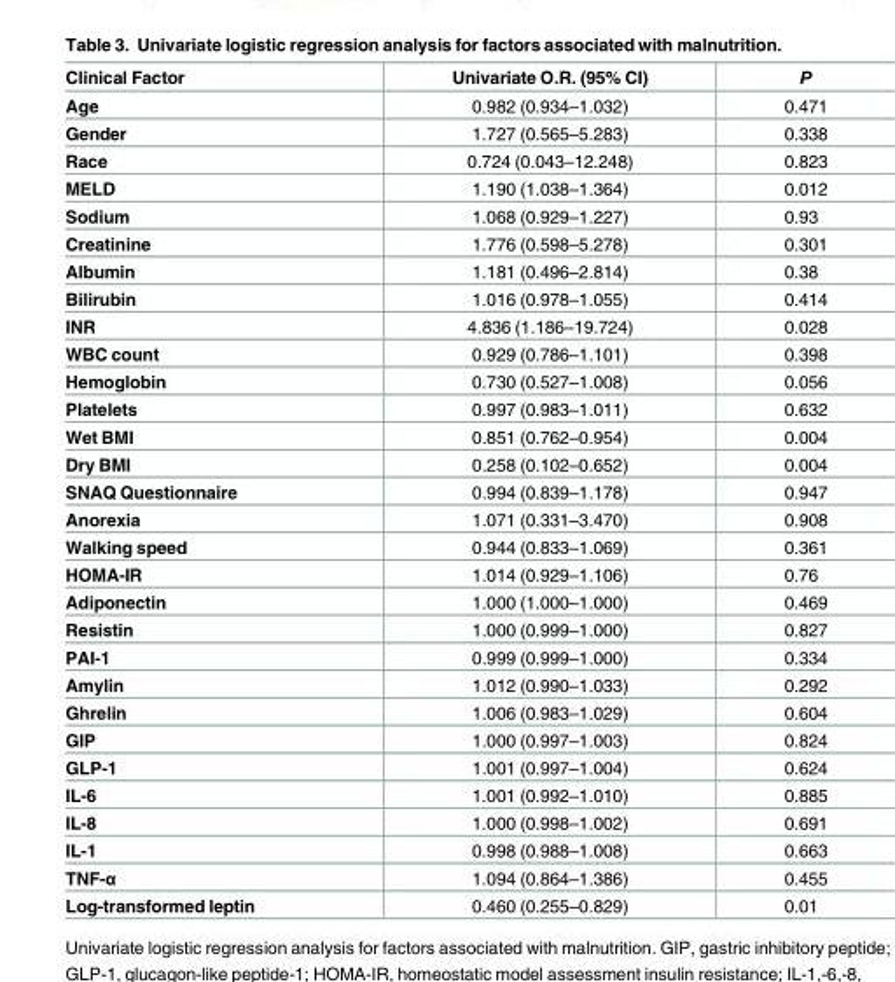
<table><thead><tr><td>Clinical Factor</td><td>Univariate O.R. (95% CI)</td><td>P</td></tr></thead><tbody><tr><td>Age</td><td>0.982 (0.934–1.032)</td><td>0.471</td></tr><tr><td>Gender</td><td>1.727 (0.565–5.283)</td><td>0.338</td></tr><tr><td>Race</td><td>0.724 (0.043–12.248)</td><td>0.823</td></tr><tr><td>MELD</td><td>1.190 (1.038–1.364)</td><td>0.012</td></tr><tr><td>Sodium</td><td>1.068 (0.929–1.227)</td><td>0.93</td></tr><tr><td>Creatinine</td><td>1.776 (0.598–5.278)</td><td>0.301</td></tr><tr><td>Albumin</td><td>1.181 (0.496–2.814)</td><td>0.38</td></tr><tr><td>Bilirubin</td><td>1.016 (0.978–1.055)</td><td>0.414</td></tr><tr><td>INR</td><td>4.836 (1.186–19.724)</td><td>0.028</td></tr><tr><td>WBC count</td><td>0.929 (0.786–1.101)</td><td>0.398</td></tr><tr><td>Hemoglobin</td><td>0.730 (0.527–1.008)</td><td>0.056</td></tr><tr><td>Platelets</td><td>0.997 (0.983–1.011)</td><td>0.632</td></tr><tr><td>Wet BMI</td><td>0.851 (0.762–0.954)</td><td>0.004</td></tr><tr><td>Dry BMI</td><td>0.258 (0.102–0.652)</td><td>0.004</td></tr><tr><td>SNAQ Questionnaire</td><td>0.994 (0.839–1.178)</td><td>0.947</td></tr><tr><td>Anorexia</td><td>1.071 (0.331–3.470)</td><td>0.908</td></tr><tr><td>Walking speed</td><td>0.944 (0.833–1.069)</td><td>0.361</td></tr><tr><td>HOMA-IR</td><td>1.014 (0.929–1.106)</td><td>0.76</td></tr><tr><td>Adiponectin</td><td>1.000 (1.000–1.000)</td><td>0.469</td></tr><tr><td>Resistin</td><td>1.000 (0.999–1.000)</td><td>0.827</td></tr><tr><td>PAI-1</td><td>0.999 (0.999–1.000)</td><td>0.334</td></tr><tr><td>Amylin</td><td>1.012 (0.990–1.033)</td><td>0.292</td></tr><tr><td>Ghrelin</td><td>1.006 (0.983–1.029)</td><td>0.604</td></tr><tr><td>GIP</td><td>1.000 (0.997–1.003)</td><td>0.824</td></tr><tr><td>GLP-1</td><td>1.001 (0.997–1.004)</td><td>0.624</td></tr><tr><td>IL-6</td><td>1.001 (0.992–1.010)</td><td>0.885</td></tr><tr><td>IL-8</td><td>1.000 (0.998–1.002)</td><td>0.691</td></tr><tr><td>IL-1</td><td>0.998 (0.988–1.008)</td><td>0.663</td></tr><tr><td>TNF-α</td><td>1.094 (0.864–1.386)</td><td>0.455</td></tr><tr><td>Log-transformed leptin</td><td>0.460 (0.255–0.829)</td><td>0.01</td></tr></tbody></table>